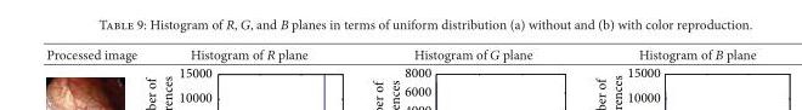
<table><tbody><tr><td>Processed image</td><td>Histogram of plane</td><td>Histogram of plane</td><td>Histogram of plane</td></tr></tbody></table>